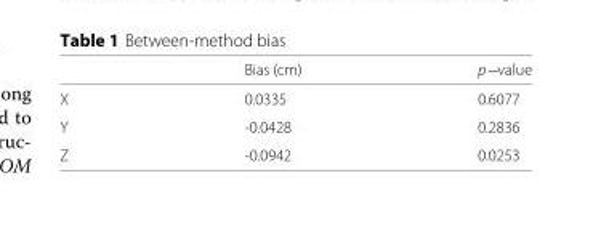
<table><thead><tr><td></td><td>Bias (cm)</td><td>p−value</td></tr></thead><tbody><tr><td>X</td><td>0.0335</td><td>0.6077</td></tr><tr><td>Y</td><td>-0.0428</td><td>0.2836</td></tr><tr><td>Z</td><td>-0.0942</td><td>0.0253</td></tr></tbody></table>